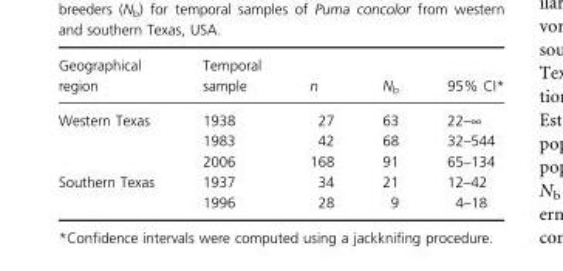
<table><thead><tr><td>Geographical region</td><td>Temporal sample</td><td>n</td><td>N<sub>b</sub></td><td>95% CI*</td></tr></thead><tbody><tr><td rowspan="3">Western Texas</td><td>1938</td><td>27</td><td>63</td><td>22–∞</td></tr><tr><td>1983</td><td>42</td><td>68</td><td>32–544</td></tr><tr><td>2006</td><td>168</td><td>91</td><td>65–134</td></tr><tr><td rowspan="2">Southern Texas</td><td>1937</td><td>34</td><td>21</td><td>12–42</td></tr><tr><td>1996</td><td>28</td><td>9</td><td>4–18</td></tr></tbody></table>